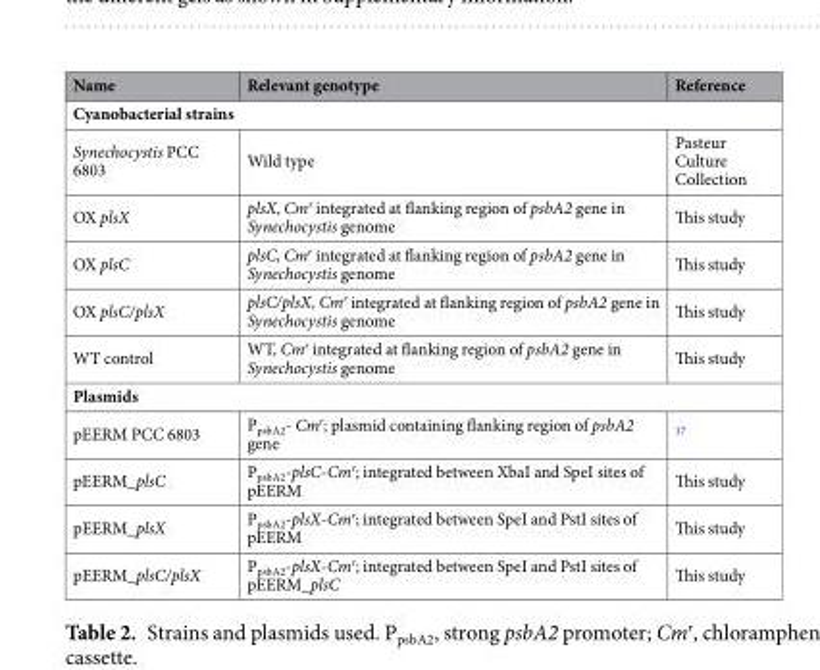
<table><thead><tr><td>Name</td><td>Relevant genotype</td><td>Reference</td></tr></thead><tbody><tr><td colspan="3">Cyanobacterial strains</td></tr><tr><td>Synechocystis PCC 6803</td><td>Wild type</td><td>Pasteur Culture Collection</td></tr><tr><td>OX plsX</td><td>plsX, Cm<sup>r</sup> integrated at flanking region of psbA2 gene in Synechocystis genome</td><td>This study</td></tr><tr><td>OX plsC</td><td>plsC, Cm<sup>r</sup> integrated at flanking region of psbA2 gene in Synechocystis genome</td><td>This study</td></tr><tr><td>OX plsC/plsX</td><td>plsC/plsX, Cm<sup>r</sup> integrated at flanking region of psbA2 gene in Synechocystis genome</td><td>This study</td></tr><tr><td>WT control</td><td>WT, Cm<sup>r</sup> integrated at flanking region of psbA2 gene in Synechocystis genome</td><td>This study</td></tr><tr><td colspan="3">Plasmids</td></tr><tr><td>pEERM PCC 6803</td><td>P<sub>psbA2</sub>- Cm<sup>r</sup>; plasmid containing flanking region of psbA2 gene</td><td><sup>17</sup></td></tr><tr><td>pEERM_plsC</td><td>P<sub>psbA2</sub>-plsC-Cm<sup>r</sup>; integrated between XbaI and SpeI sites of pEERM</td><td>This study</td></tr><tr><td>pEERM_plsX</td><td>P<sub>psbA2</sub>-plsX-Cm<sup>r</sup>; integrated between SpeI and PstI sites of pEERM</td><td>This study</td></tr><tr><td>pEERM_plsC/plsX</td><td>P<sub>psbA2</sub>-plsX-Cm<sup>r</sup>; integrated between SpeI and PstI sites of pEERM_plsC</td><td>This study</td></tr></tbody></table>